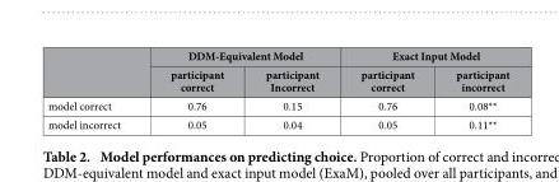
<table><thead><tr><td rowspan="2"></td><td colspan="2">DDM-Equivalent Model</td><td colspan="2">Exact Input Model</td></tr><tr><td>participant correct</td><td>participant Incorrect</td><td>participant correct</td><td>participant incorrect</td></tr></thead><tbody><tr><td>model correct</td><td>0.76</td><td>0.15</td><td>0.76</td><td>0.08**</td></tr><tr><td>model incorrect</td><td>0.05</td><td>0.04</td><td>0.05</td><td>0.11**</td></tr></tbody></table>